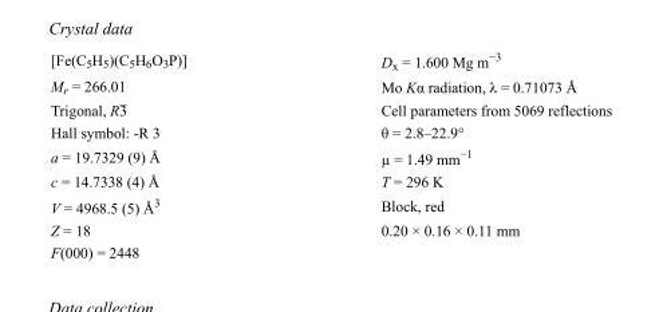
<table><tbody><tr><td>[Fe(C<sub>5</sub>H<sub>5</sub>)(C<sub>5</sub>H<sub>6</sub>O<sub>3</sub>P)]</td><td>D<sub>x</sub> = 1.600 Mg m<sup>−3</sup></td></tr><tr><td>M<sub>r</sub> = 266.01</td><td>Mo Kα radiation, λ = 0.71073 Å</td></tr><tr><td>Trigonal, R3</td><td>Cell parameters from 5069 reflections</td></tr><tr><td>Hall symbol: -R 3</td><td>θ = 2.8–22.9°</td></tr><tr><td>a = 19.7329 (9) Å</td><td>µ = 1.49 mm<sup>−1</sup></td></tr><tr><td>c = 14.7338 (4) Å</td><td>T = 296 K</td></tr><tr><td>V = 4968.5 (5) Å<sup>3</sup></td><td>Block, red</td></tr><tr><td>Z = 18</td><td>0.20 × 0.16 × 0.11 mm</td></tr><tr><td>F(000) = 2448</td><td></td></tr></tbody></table>